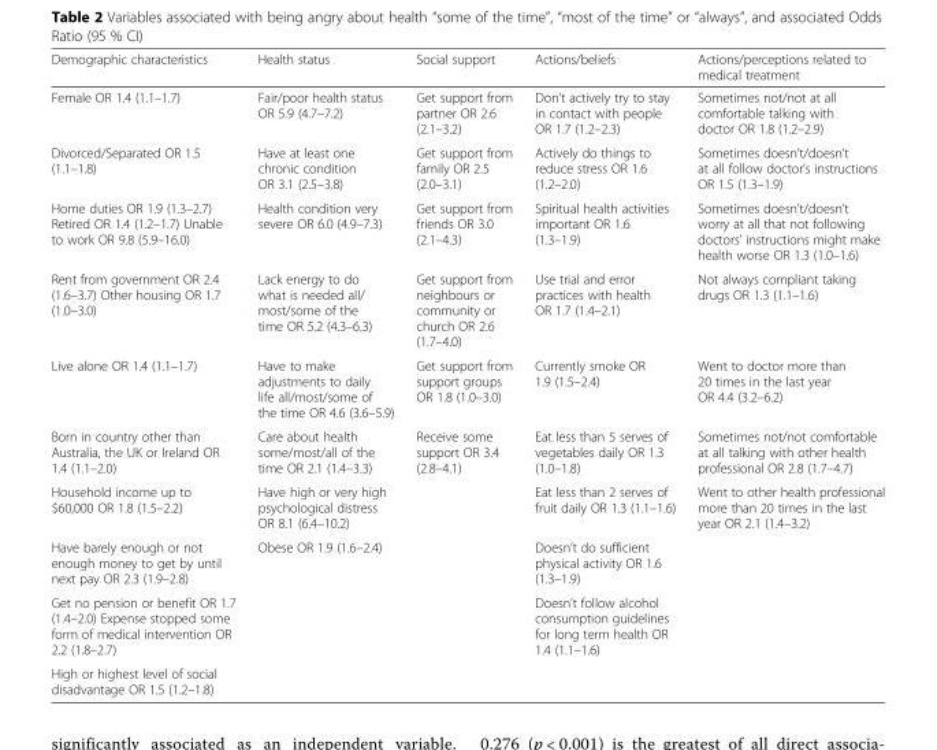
<table><thead><tr><td>Demographic characteristics</td><td>Health status</td><td>Social support</td><td>Actions/beliefs</td><td>Actions/perceptions related to medical treatment</td></tr></thead><tbody><tr><td>Female OR 1.4 (1.1–1.7)</td><td>Fair/poor health status OR 5.9 (4.7–7.2)</td><td>Get support from partner OR 2.6 (2.1–3.2)</td><td>Don’t actively try to stay in contact with people OR 1.7 (1.2–2.3)</td><td>Sometimes not/not at all comfortable talking with doctor OR 1.8 (1.2–2.9)</td></tr><tr><td>Divorced/Separated OR 1.5 (1.1–1.8)</td><td>Have at least one chronic condition OR 3.1 (2.5–3.8)</td><td>Get support from family OR 2.5 (2.0–3.1)</td><td>Actively do things to reduce stress OR 1.6 (1.2–2.0)</td><td>Sometimes doesn’t/doesn’t at all follow doctor’s instructions OR 1.5 (1.3–1.9)</td></tr><tr><td>Home duties OR 1.9 (1.3–2.7) Retired OR 1.4 (1.2–1.7) Unable to work OR 9.8 (5.9–16.0)</td><td>Health condition very severe OR 6.0 (4.9–7.3)</td><td>Get support from friends OR 3.0 (2.1–4.3)</td><td>Spiritual health activities important OR 1.6 (1.3–1.9)</td><td>Sometimes doesn’t/doesn’t worry at all that not following doctors’ instructions might make health worse OR 1.3 (1.0–1.6)</td></tr><tr><td>Rent from government OR 2.4 (1.6–3.7) Other housing OR 1.7 (1.0–3.0)</td><td>Lack energy to do what is needed all/ most/some of the time OR 5.2 (4.3–6.3)</td><td>Get support from neighbours or community or church OR 2.6 (1.7–4.0)</td><td>Use trial and error practices with health OR 1.7 (1.4–2.1)</td><td>Not always compliant taking drugs OR 1.3 (1.1–1.6)</td></tr><tr><td>Live alone OR 1.4 (1.1–1.7)</td><td>Have to make adjustments to daily life all/most/some of the time OR 4.6 (3.6–5.9)</td><td>Get support from support groups OR 1.8 (1.0–3.0)</td><td>Currently smoke OR 1.9 (1.5–2.4)</td><td>Went to doctor more than 20 times in the last year OR 4.4 (3.2–6.2)</td></tr><tr><td>Born in country other than Australia, the UK or Ireland OR 1.4 (1.1–2.0)</td><td>Care about health some/most/all of the time OR 2.1 (1.4–3.3)</td><td>Receive some support OR 3.4 (2.8–4.1)</td><td>Eat less than 5 serves of vegetables daily OR 1.3 (1.0–1.8)</td><td>Sometimes not/not comfortable at all talking with other health professional OR 2.8 (1.7–4.7)</td></tr><tr><td>Household income up to $60,000 OR 1.8 (1.5–2.2)</td><td>Have high or very high psychological distress OR 8.1 (6.4–10.2)</td><td></td><td>Eat less than 2 serves of fruit daily OR 1.3 (1.1–1.6)</td><td>Went to other health professional more than 20 times in the last year OR 2.1 (1.4–3.2)</td></tr><tr><td>Have barely enough or not enough money to get by until next pay OR 2.3 (1.9–2.8)</td><td>Obese OR 1.9 (1.6–2.4)</td><td></td><td>Doesn’t do sufficient physical activity OR 1.6 (1.3–1.9)</td><td></td></tr><tr><td>Get no pension or benefit OR 1.7 (1.4–2.0) Expense stopped some form of medical intervention OR 2.2 (1.8–2.7)</td><td></td><td></td><td>Doesn’t follow alcohol consumption guidelines for long term health OR 1.4 (1.1–1.6)</td><td></td></tr><tr><td>High or highest level of social disadvantage OR 1.5 (1.2–1.8)</td><td></td><td></td><td></td><td></td></tr></tbody></table>